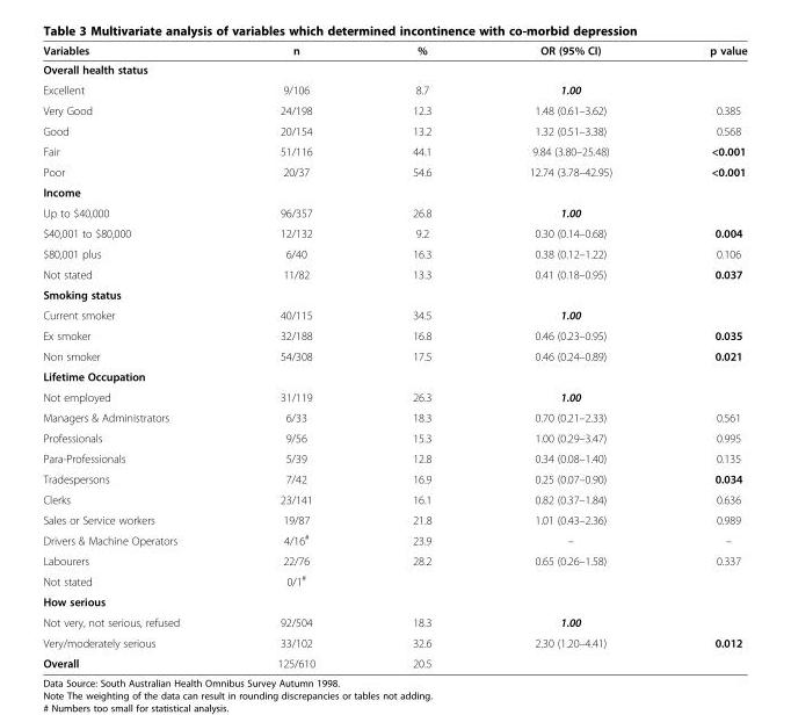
<table><thead><tr><td>Variables</td><td>n</td><td>%</td><td>OR (95% CI)</td><td>p value</td></tr></thead><tbody><tr><td colspan="5">Overall health status</td></tr><tr><td>Excellent</td><td>9/106</td><td>8.7</td><td>1.00</td><td></td></tr><tr><td>Very Good</td><td>24/198</td><td>12.3</td><td>1.48 (0.61–3.62)</td><td>0.385</td></tr><tr><td>Good</td><td>20/154</td><td>13.2</td><td>1.32 (0.51–3.38)</td><td>0.568</td></tr><tr><td>Fair</td><td>51/116</td><td>44.1</td><td>9.84 (3.80–25.48)</td><td>&lt;0.001</td></tr><tr><td>Poor</td><td>20/37</td><td>54.6</td><td>12.74 (3.78–42.95)</td><td>&lt;0.001</td></tr><tr><td colspan="5">Income</td></tr><tr><td>Up to $40,000</td><td>96/357</td><td>26.8</td><td>1.00</td><td></td></tr><tr><td>$40,001 to $80,000</td><td>12/132</td><td>9.2</td><td>0.30 (0.14–0.68)</td><td>0.004</td></tr><tr><td>$80,001 plus</td><td>6/40</td><td>16.3</td><td>0.38 (0.12–1.22)</td><td>0.106</td></tr><tr><td>Not stated</td><td>11/82</td><td>13.3</td><td>0.41 (0.18–0.95)</td><td>0.037</td></tr><tr><td colspan="5">Smoking status</td></tr><tr><td>Current smoker</td><td>40/115</td><td>34.5</td><td>1.00</td><td></td></tr><tr><td>Ex smoker</td><td>32/188</td><td>16.8</td><td>0.46 (0.23–0.95)</td><td>0.035</td></tr><tr><td>Non smoker</td><td>54/308</td><td>17.5</td><td>0.46 (0.24–0.89)</td><td>0.021</td></tr><tr><td colspan="5">Lifetime Occupation</td></tr><tr><td>Not employed</td><td>31/119</td><td>26.3</td><td>1.00</td><td></td></tr><tr><td>Managers &amp; Administrators</td><td>6/33</td><td>18.3</td><td>0.70 (0.21–2.33)</td><td>0.561</td></tr><tr><td>Professionals</td><td>9/56</td><td>15.3</td><td>1.00 (0.29–3.47)</td><td>0.995</td></tr><tr><td>Para-Professionals</td><td>5/39</td><td>12.8</td><td>0.34 (0.08–1.40)</td><td>0.135</td></tr><tr><td>Tradespersons</td><td>7/42</td><td>16.9</td><td>0.25 (0.07–0.90)</td><td>0.034</td></tr><tr><td>Clerks</td><td>23/141</td><td>16.1</td><td>0.82 (0.37–1.84)</td><td>0.636</td></tr><tr><td>Sales or Service workers</td><td>19/87</td><td>21.8</td><td>1.01 (0.43–2.36)</td><td>0.989</td></tr><tr><td>Drivers &amp; Machine Operators</td><td>4/16<sup>#</sup></td><td>23.9</td><td>–</td><td>–</td></tr><tr><td>Labourers</td><td>22/76</td><td>28.2</td><td>0.65 (0.26–1.58)</td><td>0.337</td></tr><tr><td>Not stated</td><td>0/1<sup>#</sup></td><td></td><td></td><td></td></tr><tr><td colspan="5">How serious</td></tr><tr><td>Not very, not serious, refused</td><td>92/504</td><td>18.3</td><td>1.00</td><td></td></tr><tr><td>Very/moderately serious</td><td>33/102</td><td>32.6</td><td>2.30 (1.20–4.41)</td><td>0.012</td></tr><tr><td>Overall</td><td>125/610</td><td>20.5</td><td></td><td></td></tr></tbody></table>